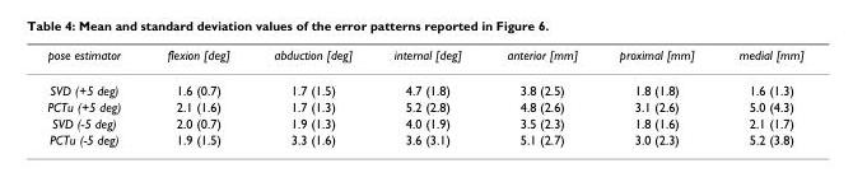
<table><thead><tr><td>pose estimator</td><td>flexion [deg]</td><td>abduction [deg]</td><td>internal [deg]</td><td>anterior [mm]</td><td>proximal [mm]</td><td>medial [mm]</td></tr></thead><tbody><tr><td>SVD (+5 deg)</td><td>1.6 (0.7)</td><td>1.7 (1.5)</td><td>4.7 (1.8)</td><td>3.8 (2.5)</td><td>1.8 (1.8)</td><td>1.6 (1.3)</td></tr><tr><td>PCTu (+5 deg)</td><td>2.1 (1.6)</td><td>1.7 (1.3)</td><td>5.2 (2.8)</td><td>4.8 (2.6)</td><td>3.1 (2.6)</td><td>5.0 (4.3)</td></tr><tr><td>SVD (-5 deg)</td><td>2.0 (0.7)</td><td>1.9 (1.3)</td><td>4.0 (1.9)</td><td>3.5 (2.3)</td><td>1.8 (1.6)</td><td>2.1 (1.7)</td></tr><tr><td>PCTu (-5 deg)</td><td>1.9 (1.5)</td><td>3.3 (1.6)</td><td>3.6 (3.1)</td><td>5.1 (2.7)</td><td>3.0 (2.3)</td><td>5.2 (3.8)</td></tr></tbody></table>